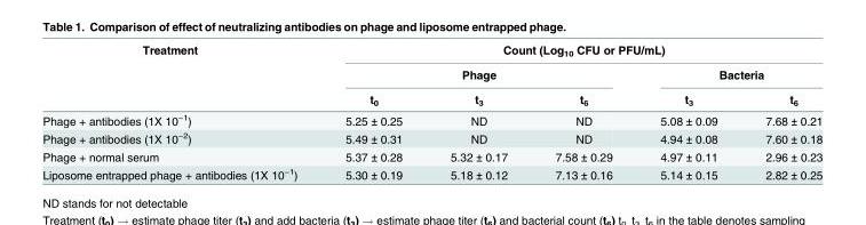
<table><thead><tr><td rowspan="3">Treatment</td><td colspan="5">Count (Log<sub>10</sub> CFU or PFU/mL)</td></tr><tr><td colspan="3">Phage</td><td colspan="2">Bacteria</td></tr><tr><td>t<sub>0</sub></td><td>t<sub>3</sub></td><td>t<sub>6</sub></td><td>t<sub>3</sub></td><td>t<sub>6</sub></td></tr></thead><tbody><tr><td>Phage + antibodies (1X 10<sup>−1</sup>)</td><td>5.25 ± 0.25</td><td>ND</td><td>ND</td><td>5.08 ± 0.09</td><td>7.68 ± 0.21</td></tr><tr><td>Phage + antibodies (1X 10<sup>−2</sup>)</td><td>5.49 ± 0.31</td><td>ND</td><td>ND</td><td>4.94 ± 0.08</td><td>7.60 ± 0.18</td></tr><tr><td>Phage + normal serum</td><td>5.37 ± 0.28</td><td>5.32 ± 0.17</td><td>7.58 ± 0.29</td><td>4.97 ± 0.11</td><td>2.96 ± 0.23</td></tr><tr><td>Liposome entrapped phage + antibodies (1X 10<sup>−1</sup>)</td><td>5.30 ± 0.19</td><td>5.18 ± 0.12</td><td>7.13 ± 0.16</td><td>5.14 ± 0.15</td><td>2.82 ± 0.25</td></tr></tbody></table>